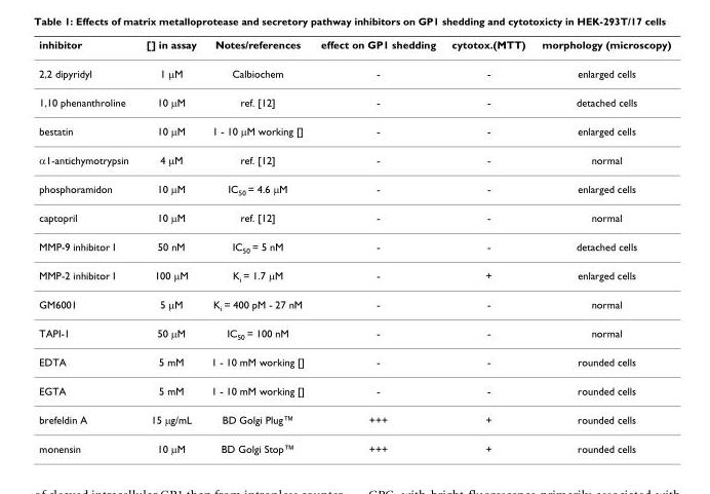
<table><thead><tr><td>inhibitor</td><td>[] in assay</td><td>Notes/references</td><td>effect on GP1 shedding</td><td>cytotox.(MTT)</td><td>morphology (microscopy)</td></tr></thead><tbody><tr><td>2,2 dipyridyl</td><td>1 μM</td><td>Calbiochem</td><td>-</td><td>-</td><td>enlarged cells</td></tr><tr><td>1,10 phenanthroline</td><td>10 μM</td><td>ref. [12]</td><td>-</td><td>-</td><td>detached cells</td></tr><tr><td>bestatin</td><td>10 μM</td><td>1 - 10 μM working []</td><td>-</td><td>-</td><td>enlarged cells</td></tr><tr><td>α1-antichymotrypsin</td><td>4 μM</td><td>ref. [12]</td><td>-</td><td>-</td><td>normal</td></tr><tr><td>phosphoramidon</td><td>10 μM</td><td>IC<sub>50</sub> = 4.6 μM</td><td>-</td><td>-</td><td>enlarged cells</td></tr><tr><td>captopril</td><td>10 μM</td><td>ref. [12]</td><td>-</td><td>-</td><td>normal</td></tr><tr><td>MMP-9 inhibitor I</td><td>50 nM</td><td>IC<sub>50</sub> = 5 nM</td><td>-</td><td>-</td><td>detached cells</td></tr><tr><td>MMP-2 inhibitor I</td><td>100 μM</td><td>K<sub>i</sub> = 1.7 μM</td><td>-</td><td>+</td><td>enlarged cells</td></tr><tr><td>GM6001</td><td>5 μM</td><td>K<sub>i</sub> = 400 pM - 27 nM</td><td>-</td><td>-</td><td>normal</td></tr><tr><td>TAPI-1</td><td>50 μM</td><td>IC<sub>50</sub> = 100 nM</td><td>-</td><td>-</td><td>normal</td></tr><tr><td>EDTA</td><td>5 mM</td><td>1 - 10 mM working []</td><td>-</td><td>-</td><td>rounded cells</td></tr><tr><td>EGTA</td><td>5 mM</td><td>1 - 10 mM working []</td><td>-</td><td>-</td><td>rounded cells</td></tr><tr><td>brefeldin A</td><td>15 μg/mL</td><td>BD Golgi Plug™</td><td>+++</td><td>+</td><td>rounded cells</td></tr><tr><td>monensin</td><td>10 μM</td><td>BD Golgi Stop™</td><td>+++</td><td>+</td><td>rounded cells</td></tr></tbody></table>